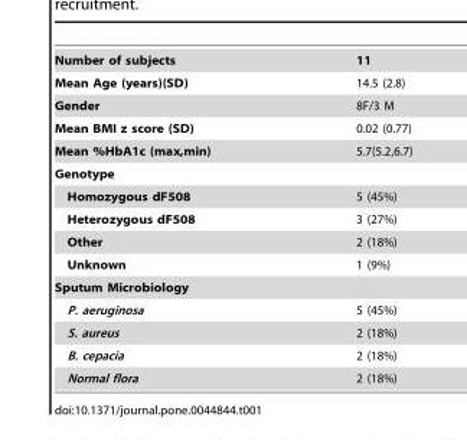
<table><tbody><tr><td>Number of subjects</td><td>11</td></tr><tr><td>Mean Age (years)(SD)</td><td>14.5 (2.8)</td></tr><tr><td>Gender</td><td>8F/3 M</td></tr><tr><td>Mean BMI z score (SD)</td><td>0.02 (0.77)</td></tr><tr><td>Mean %HbA1c (max,min)</td><td>5.7(5.2,6.7)</td></tr><tr><td colspan="2">Genotype</td></tr><tr><td>Homozygous dF508</td><td>5 (45%)</td></tr><tr><td>Heterozygous dF508</td><td>3 (27%)</td></tr><tr><td>Other</td><td>2 (18%)</td></tr><tr><td>Unknown</td><td>1 (9%)</td></tr><tr><td colspan="2">Sputum Microbiology</td></tr><tr><td>P. aeruginosa</td><td>5 (45%)</td></tr><tr><td>S. aureus</td><td>2 (18%)</td></tr><tr><td>B. cepacia</td><td>2 (18%)</td></tr><tr><td>Normal flora</td><td>2 (18%)</td></tr></tbody></table>